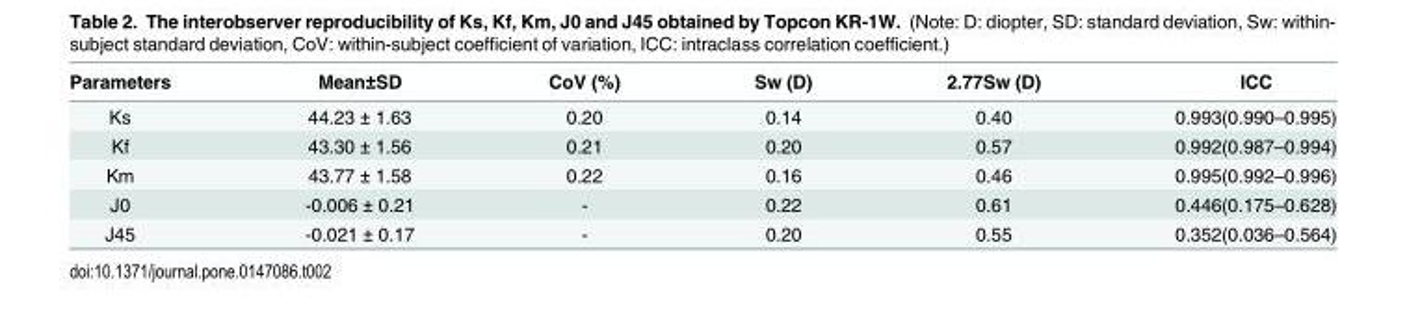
<table><thead><tr><td>Parameters</td><td>Mean±SD</td><td>CoV (%)</td><td>Sw (D)</td><td>2.77Sw (D)</td><td>ICC</td></tr></thead><tbody><tr><td>Ks</td><td>44.23 ± 1.63</td><td>0.20</td><td>0.14</td><td>0.40</td><td>0.993(0.990–0.995)</td></tr><tr><td>Kf</td><td>43.30 ± 1.56</td><td>0.21</td><td>0.20</td><td>0.57</td><td>0.992(0.987–0.994)</td></tr><tr><td>Km</td><td>43.77 ± 1.58</td><td>0.22</td><td>0.16</td><td>0.46</td><td>0.995(0.992–0.996)</td></tr><tr><td>J0</td><td>-0.006 ± 0.21</td><td>-</td><td>0.22</td><td>0.61</td><td>0.446(0.175–0.628)</td></tr><tr><td>J45</td><td>-0.021 ± 0.17</td><td>-</td><td>0.20</td><td>0.55</td><td>0.352(0.036–0.564)</td></tr></tbody></table>